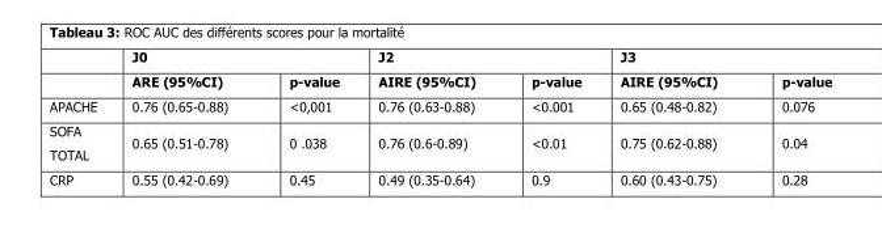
<table><thead><tr><td rowspan="2"></td><td colspan="2">J0</td><td colspan="2">J2</td><td colspan="2">J3</td></tr><tr><td>ARE (95%CI)</td><td>p-value</td><td>AIRE (95%CI)</td><td>p-value</td><td>AIRE (95%CI)</td><td>p-value</td></tr></thead><tbody><tr><td>APACHE</td><td>0.76 (0.65-0.88)</td><td>&lt;0,001</td><td>0.76 (0.63-0.88)</td><td>&lt;0.001</td><td>0.65 (0.48-0.82)</td><td>0.076</td></tr><tr><td>SOFA TOTAL</td><td>0.65 (0.51-0.78)</td><td>0 .038</td><td>0.76 (0.6-0.89)</td><td>&lt;0.01</td><td>0.75 (0.62-0.88)</td><td>0.04</td></tr><tr><td>CRP</td><td>0.55 (0.42-0.69)</td><td>0.45</td><td>0.49 (0.35-0.64)</td><td>0.9</td><td>0.60 (0.43-0.75)</td><td>0.28</td></tr></tbody></table>